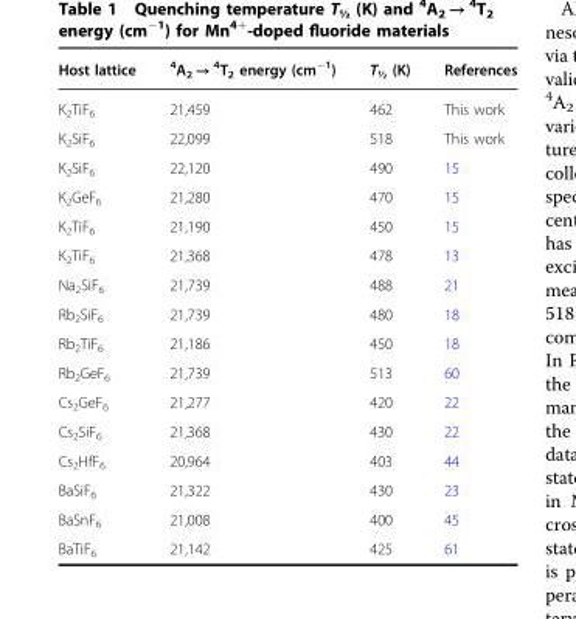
<table><thead><tr><td>Host lattice</td><td><sup>4</sup>A<sub>2</sub> → <sup>4</sup>T<sub>2</sub> energy (cm<sup>−1</sup>)</td><td>T<sub>½</sub> (K)</td><td>References</td></tr></thead><tbody><tr><td>K<sub>2</sub>TiF<sub>6</sub></td><td>21,459</td><td>462</td><td>This work</td></tr><tr><td>K<sub>2</sub>SiF<sub>6</sub></td><td>22,099</td><td>518</td><td>This work</td></tr><tr><td>K<sub>2</sub>SiF<sub>6</sub></td><td>22,120</td><td>490</td><td>15</td></tr><tr><td>K<sub>2</sub>GeF<sub>6</sub></td><td>21,280</td><td>470</td><td>15</td></tr><tr><td>K<sub>2</sub>TiF<sub>6</sub></td><td>21,190</td><td>450</td><td>15</td></tr><tr><td>K<sub>2</sub>TiF<sub>6</sub></td><td>21,368</td><td>478</td><td>13</td></tr><tr><td>Na<sub>2</sub>SiF<sub>6</sub></td><td>21,739</td><td>488</td><td>21</td></tr><tr><td>Rb<sub>2</sub>SiF<sub>6</sub></td><td>21,739</td><td>480</td><td>18</td></tr><tr><td>Rb<sub>2</sub>TiF<sub>6</sub></td><td>21,186</td><td>450</td><td>18</td></tr><tr><td>Rb<sub>2</sub>GeF<sub>6</sub></td><td>21,739</td><td>513</td><td>60</td></tr><tr><td>Cs<sub>2</sub>GeF<sub>6</sub></td><td>21,277</td><td>420</td><td>22</td></tr><tr><td>Cs<sub>2</sub>SiF<sub>6</sub></td><td>21,368</td><td>430</td><td>22</td></tr><tr><td>Cs<sub>2</sub>HfF<sub>6</sub></td><td>20,964</td><td>403</td><td>44</td></tr><tr><td>BaSiF<sub>6</sub></td><td>21,322</td><td>430</td><td>23</td></tr><tr><td>BaSnF<sub>6</sub></td><td>21,008</td><td>400</td><td>45</td></tr><tr><td>BaTiF<sub>6</sub></td><td>21,142</td><td>425</td><td>61</td></tr></tbody></table>